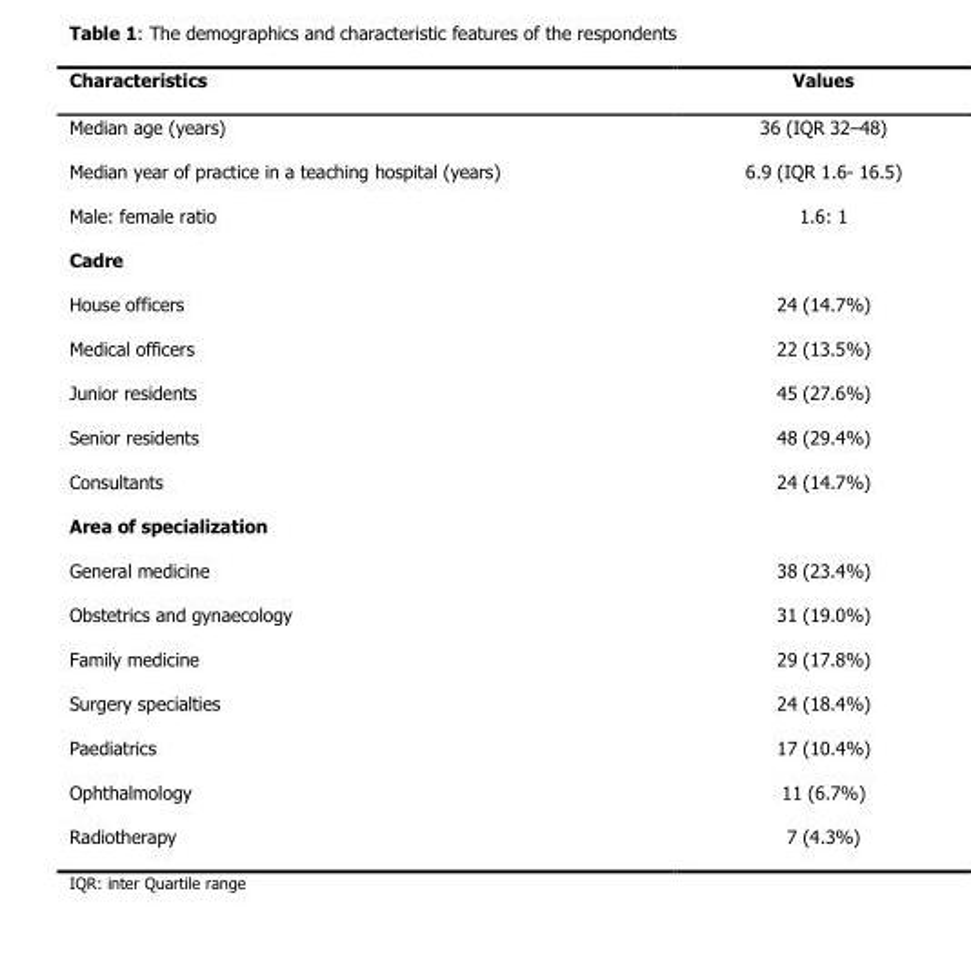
<table><thead><tr><td>Characteristics</td><td>Values</td></tr></thead><tbody><tr><td>Median age (years)</td><td>36 (IQR 32–48)</td></tr><tr><td>Median year of practice in a teaching hospital (years)</td><td>6.9 (IQR 1.6- 16.5)</td></tr><tr><td>Male: female ratio</td><td>1.6: 1</td></tr><tr><td colspan="2">Cadre</td></tr><tr><td>House officers</td><td>24 (14.7%)</td></tr><tr><td>Medical officers</td><td>22 (13.5%)</td></tr><tr><td>Junior residents</td><td>45 (27.6%)</td></tr><tr><td>Senior residents</td><td>48 (29.4%)</td></tr><tr><td>Consultants</td><td>24 (14.7%)</td></tr><tr><td colspan="2">Area of specialization</td></tr><tr><td>General medicine</td><td>38 (23.4%)</td></tr><tr><td>Obstetrics and gynaecology</td><td>31 (19.0%)</td></tr><tr><td>Family medicine</td><td>29 (17.8%)</td></tr><tr><td>Surgery specialties</td><td>24 (18.4%)</td></tr><tr><td>Paediatrics</td><td>17 (10.4%)</td></tr><tr><td>Ophthalmology</td><td>11 (6.7%)</td></tr><tr><td>Radiotherapy</td><td>7 (4.3%)</td></tr><tr><td>IQR: inter Quartile range</td><td></td></tr></tbody></table>